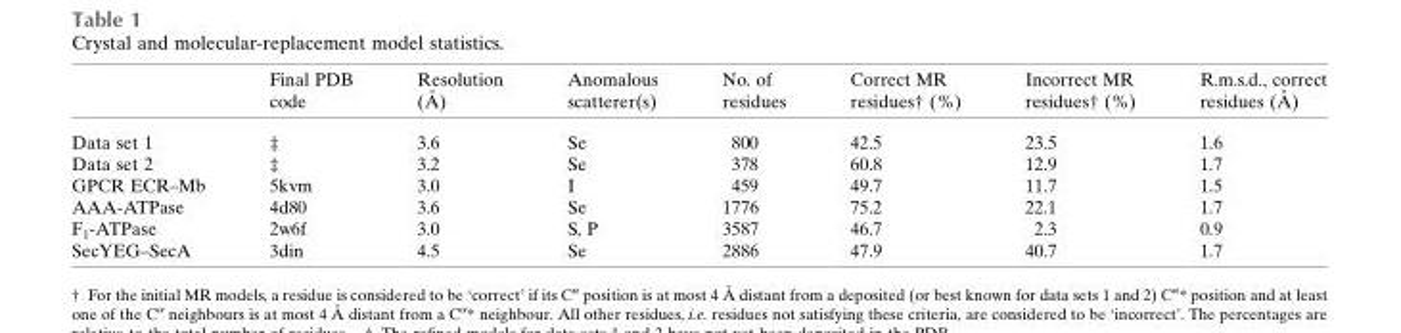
<table><thead><tr><td></td><td>Final PDB code</td><td>Resolution (A˚ )</td><td>Anomalous scatterer(s)</td><td>No. of residues</td><td>Correct MR residues† (%)</td><td>Incorrect MR residues† (%)</td><td>R.m.s.d., correct residues (A˚ )</td></tr></thead><tbody><tr><td>Data set 1</td><td>‡</td><td>3.6</td><td>Se</td><td>800</td><td>42.5</td><td>23.5</td><td>1.6</td></tr><tr><td>Data set 2</td><td>‡</td><td>3.2</td><td>Se</td><td>378</td><td>60.8</td><td>12.9</td><td>1.7</td></tr><tr><td>GPCR ECR–Mb</td><td>5kvm</td><td>3.0</td><td>I</td><td>459</td><td>49.7</td><td>11.7</td><td>1.5</td></tr><tr><td>AAA-ATPase</td><td>4d80</td><td>3.6</td><td>Se</td><td>1776</td><td>75.2</td><td>22.1</td><td>1.7</td></tr><tr><td>F<sub>1</sub>-ATPase</td><td>2w6f</td><td>3.0</td><td>S, P</td><td>3587</td><td>46.7</td><td>2.3</td><td>0.9</td></tr><tr><td>SecYEG–SecA</td><td>3din</td><td>4.5</td><td>Se</td><td>2886</td><td>47.9</td><td>40.7</td><td>1.7</td></tr></tbody></table>